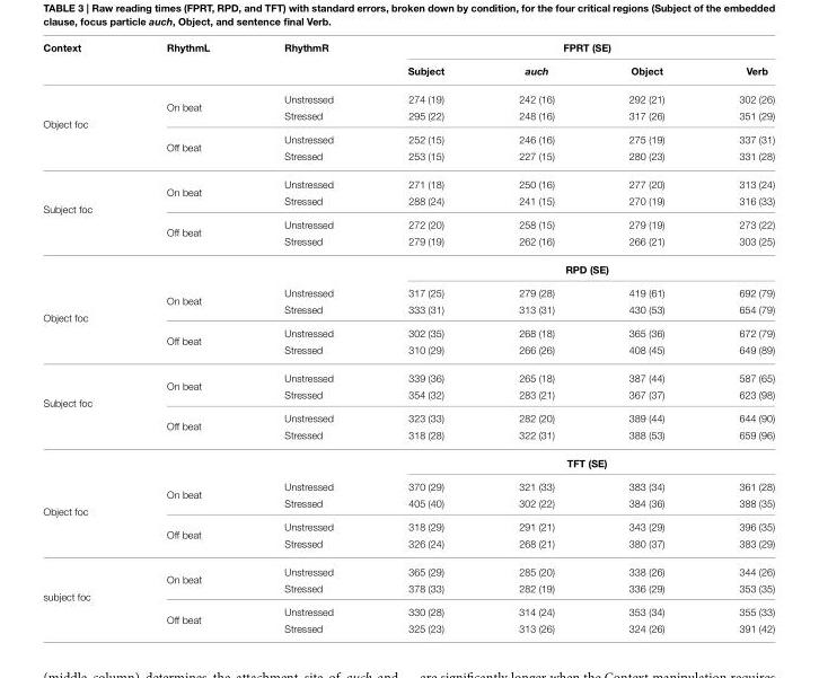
<table><thead><tr><td rowspan="2">Context</td><td rowspan="2">RhythmL</td><td rowspan="2">RhythmR</td><td colspan="4">FPRT (SE)</td></tr><tr><td>Subject</td><td>auch</td><td>Object</td><td>Verb</td></tr></thead><tbody><tr><td rowspan="4">Object foc</td><td rowspan="2">On beat</td><td>Unstressed</td><td>274 (19)</td><td>242 (16)</td><td>292 (21)</td><td>302 (26)</td></tr><tr><td>Stressed</td><td>295 (22)</td><td>248 (16)</td><td>317 (26)</td><td>351 (29)</td></tr><tr><td rowspan="2">Off beat</td><td>Unstressed</td><td>252 (15)</td><td>246 (16)</td><td>275 (19)</td><td>337 (31)</td></tr><tr><td>Stressed</td><td>253 (15)</td><td>227 (15)</td><td>280 (23)</td><td>331 (28)</td></tr><tr><td rowspan="5">Subject foc</td><td rowspan="2">On beat</td><td>Unstressed</td><td>271 (18)</td><td>250 (16)</td><td>277 (20)</td><td>313 (24)</td></tr><tr><td>Stressed</td><td>288 (24)</td><td>241 (15)</td><td>270 (19)</td><td>316 (33)</td></tr><tr><td rowspan="2">Off beat</td><td>Unstressed</td><td>272 (20)</td><td>258 (15)</td><td>279 (19)</td><td>273 (22)</td></tr><tr><td>Stressed</td><td>279 (19)</td><td>262 (16)</td><td>266 (21)</td><td>303 (25)</td></tr><tr><td></td><td></td><td colspan="4">RPD (SE)</td></tr><tr><td rowspan="4">Object foc</td><td rowspan="2">On beat</td><td>Unstressed</td><td>317 (25)</td><td>279 (28)</td><td>419 (61)</td><td>692 (79)</td></tr><tr><td>Stressed</td><td>333 (31)</td><td>313 (31)</td><td>430 (53)</td><td>654 (79)</td></tr><tr><td rowspan="2">Off beat</td><td>Unstressed</td><td>302 (35)</td><td>268 (18)</td><td>365 (36)</td><td>672 (79)</td></tr><tr><td>Stressed</td><td>310 (29)</td><td>266 (26)</td><td>408 (45)</td><td>649 (89)</td></tr><tr><td rowspan="5">Subject foc</td><td rowspan="2">On beat</td><td>Unstressed</td><td>339 (36)</td><td>265 (18)</td><td>387 (44)</td><td>587 (65)</td></tr><tr><td>Stressed</td><td>354 (32)</td><td>283 (21)</td><td>367 (37)</td><td>623 (98)</td></tr><tr><td rowspan="2">Off beat</td><td>Unstressed</td><td>323 (33)</td><td>282 (20)</td><td>389 (44)</td><td>644 (90)</td></tr><tr><td>Stressed</td><td>318 (28)</td><td>322 (31)</td><td>388 (53)</td><td>659 (96)</td></tr><tr><td></td><td></td><td colspan="4">TFT (SE)</td></tr><tr><td rowspan="4">Object foc</td><td rowspan="2">On beat</td><td>Unstressed</td><td>370 (29)</td><td>321 (33)</td><td>383 (34)</td><td>361 (28)</td></tr><tr><td>Stressed</td><td>405 (40)</td><td>302 (22)</td><td>384 (36)</td><td>388 (35)</td></tr><tr><td rowspan="2">Off beat</td><td>Unstressed</td><td>318 (29)</td><td>291 (21)</td><td>343 (29)</td><td>396 (35)</td></tr><tr><td>Stressed</td><td>326 (24)</td><td>268 (21)</td><td>380 (37)</td><td>383 (29)</td></tr><tr><td rowspan="4">subject foc</td><td rowspan="2">On beat</td><td>Unstressed</td><td>365 (29)</td><td>285 (20)</td><td>338 (26)</td><td>344 (26)</td></tr><tr><td>Stressed</td><td>378 (33)</td><td>282 (19)</td><td>336 (29)</td><td>353 (35)</td></tr><tr><td rowspan="2">Off beat</td><td>Unstressed</td><td>330 (28)</td><td>314 (24)</td><td>353 (34)</td><td>355 (33)</td></tr><tr><td>Stressed</td><td>325 (23)</td><td>313 (26)</td><td>324 (26)</td><td>391 (42)</td></tr></tbody></table>